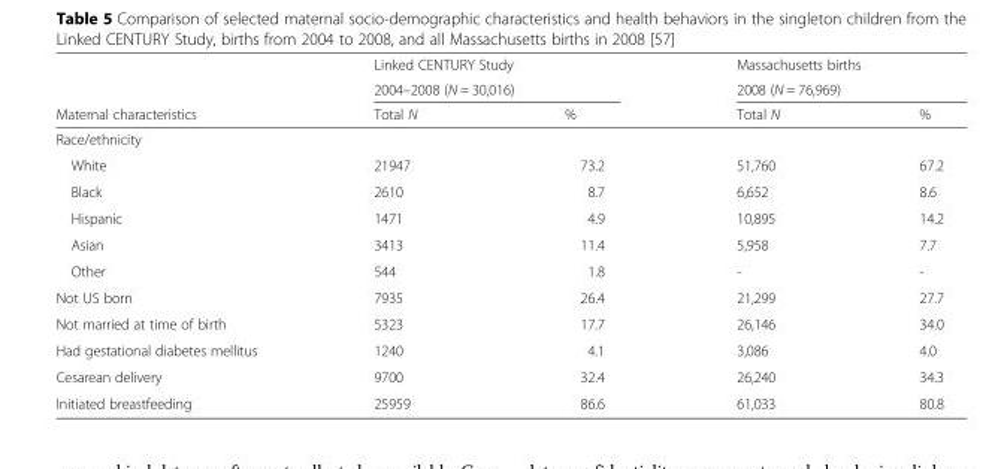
<table><thead><tr><td rowspan="3">Maternal characteristics</td><td rowspan="2" colspan="2">Linked CENTURY Study 2004–2008 (N = 30,016)</td><td rowspan="2" colspan="2">Massachusetts births 2008 (N = 76,969)</td></tr><tr></tr><tr><td>Total N</td><td>%</td><td>Total N</td><td>%</td></tr></thead><tbody><tr><td colspan="5">Race/ethnicity</td></tr><tr><td>White</td><td>21947</td><td>73.2</td><td>51,760</td><td>67.2</td></tr><tr><td>Black</td><td>2610</td><td>8.7</td><td>6,652</td><td>8.6</td></tr><tr><td>Hispanic</td><td>1471</td><td>4.9</td><td>10,895</td><td>14.2</td></tr><tr><td>Asian</td><td>3413</td><td>11.4</td><td>5,958</td><td>7.7</td></tr><tr><td>Other</td><td>544</td><td>1.8</td><td>-</td><td>-</td></tr><tr><td>Not US born</td><td>7935</td><td>26.4</td><td>21,299</td><td>27.7</td></tr><tr><td>Not married at time of birth</td><td>5323</td><td>17.7</td><td>26,146</td><td>34.0</td></tr><tr><td>Had gestational diabetes mellitus</td><td>1240</td><td>4.1</td><td>3,086</td><td>4.0</td></tr><tr><td>Cesarean delivery</td><td>9700</td><td>32.4</td><td>26,240</td><td>34.3</td></tr><tr><td>Initiated breastfeeding</td><td>25959</td><td>86.6</td><td>61,033</td><td>80.8</td></tr></tbody></table>